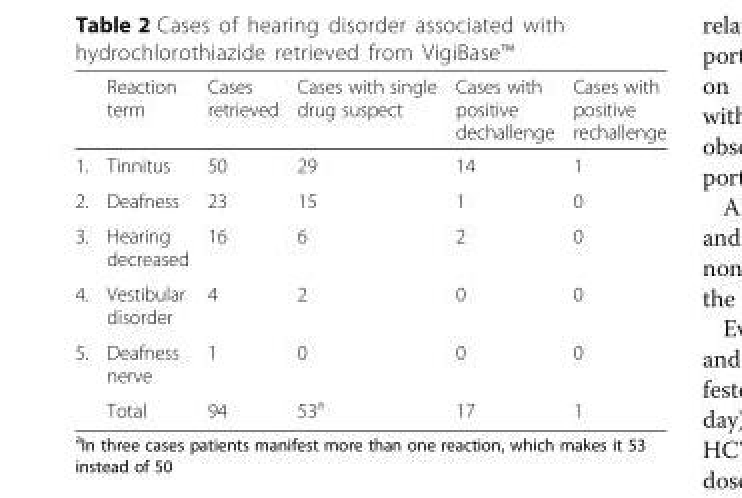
<table><thead><tr><td></td><td>Reaction term</td><td>Cases retrieved</td><td>Cases with single drug suspect</td><td>Cases with positive dechallenge</td><td>Cases with positive rechallenge</td></tr></thead><tbody><tr><td>1.</td><td>Tinnitus</td><td>50</td><td>29</td><td>14</td><td>1</td></tr><tr><td>2.</td><td>Deafness</td><td>23</td><td>15</td><td>1</td><td>0</td></tr><tr><td>3.</td><td>Hearing decreased</td><td>16</td><td>6</td><td>2</td><td>0</td></tr><tr><td>4.</td><td>Vestibular disorder</td><td>4</td><td>2</td><td>0</td><td>0</td></tr><tr><td rowspan="2">5.</td><td>Deafness nerve</td><td>1</td><td>0</td><td>0</td><td>0</td></tr><tr><td>Total</td><td>94</td><td>53<sup>a</sup></td><td>17</td><td>1</td></tr></tbody></table>